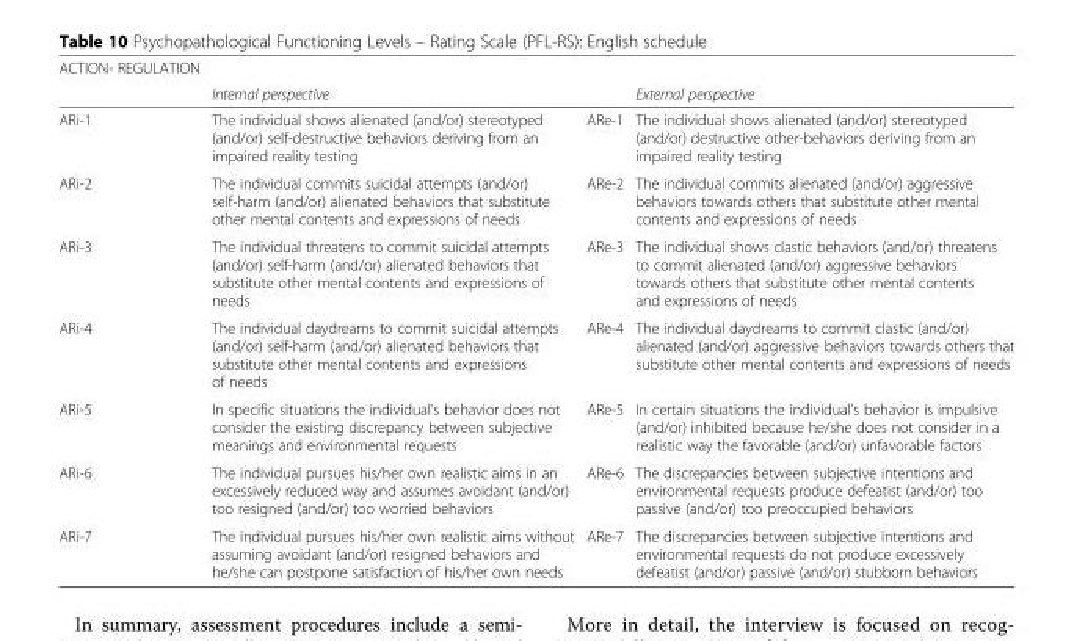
<table><thead><tr><td rowspan="2">ACTION- REGULATION</td><td rowspan="2">Internal perspective</td><td rowspan="2"></td><td rowspan="2">External perspective</td></tr><tr></tr></thead><tbody><tr><td>ARi-1</td><td>The individual shows alienated (and/or) stereotyped (and/or) self-destructive behaviors deriving from an impaired reality testing</td><td>ARe-1</td><td>The individual shows alienated (and/or) stereotyped (and/or) destructive other-behaviors deriving from an impaired reality testing</td></tr><tr><td>ARi-2</td><td>The individual commits suicidal attempts (and/or) self-harm (and/or) alienated behaviors that substitute other mental contents and expressions of needs</td><td>ARe-2</td><td>The individual commits alienated (and/or) aggressive behaviors towards others that substitute other mental contents and expressions of needs</td></tr><tr><td>ARi-3</td><td>The individual threatens to commit suicidal attempts (and/or) self-harm (and/or) alienated behaviors that substitute other mental contents and expressions of needs</td><td>ARe-3</td><td>The individual shows clastic behaviors (and/or) threatens to commit alienated (and/or) aggressive behaviors towards others that substitute other mental contents and expressions of needs</td></tr><tr><td>ARi-4</td><td>The individual daydreams to commit suicidal attempts (and/or) self-harm (and/or) alienated behaviors that substitute other mental contents and expressions of needs</td><td>ARe-4</td><td>The individual daydreams to commit clastic (and/or) alienated (and/or) aggressive behaviors towards others that substitute other mental contents and expressions of needs</td></tr><tr><td>ARi-5</td><td>In specific situations the individual’s behavior does not consider the existing discrepancy between subjective meanings and environmental requests</td><td>ARe-5</td><td>In certain situations the individual’s behavior is impulsive (and/or) inhibited because he/she does not consider in a realistic way the favorable (and/or) unfavorable factors</td></tr><tr><td>ARi-6</td><td>The individual pursues his/her own realistic aims in an excessively reduced way and assumes avoidant (and/or) too resigned (and/or) too worried behaviors</td><td>ARe-6</td><td>The discrepancies between subjective intentions and environmental requests produce defeatist (and/or) too passive (and/or) too preoccupied behaviors</td></tr><tr><td>ARi-7</td><td>The individual pursues his/her own realistic aims without assuming avoidant (and/or) resigned behaviors and he/she can postpone satisfaction of his/her own needs</td><td>ARe-7</td><td>The discrepancies between subjective intentions and environmental requests do not produce excessively defeatist (and/or) passive (and/or) stubborn behaviors</td></tr></tbody></table>